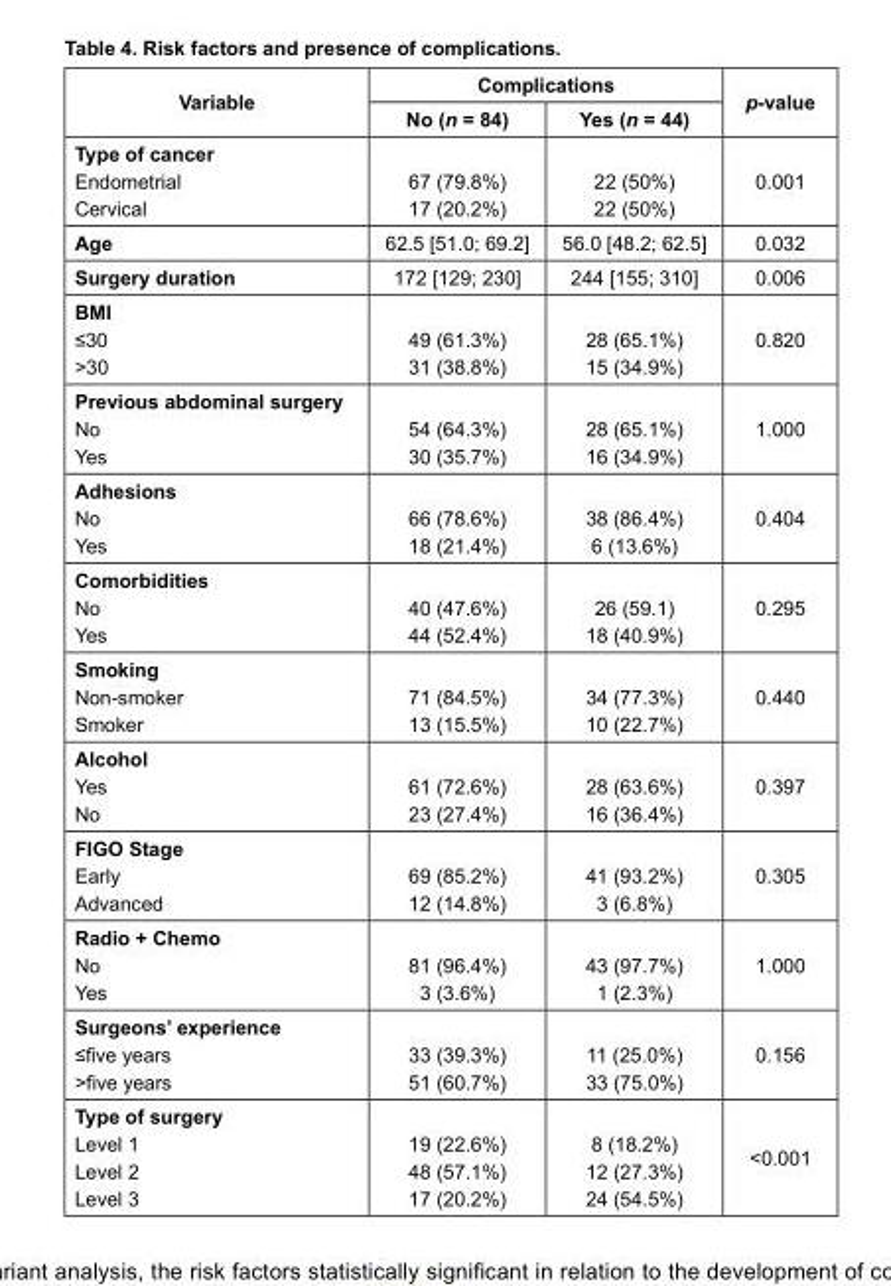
<table><thead><tr><td rowspan="2">Variable</td><td colspan="2">Complications</td><td rowspan="2">p-value</td></tr><tr><td>No (n = 84)</td><td>Yes (n = 44)</td></tr></thead><tbody><tr><td>Type of cancer Endometrial Cervical</td><td>67 (79.8%) 17 (20.2%)</td><td>22 (50%) 22 (50%)</td><td>0.001</td></tr><tr><td>Age</td><td>62.5 [51.0; 69.2]</td><td>56.0 [48.2; 62.5]</td><td>0.032</td></tr><tr><td>Surgery duration</td><td>172 [129; 230]</td><td>244 [155; 310]</td><td>0.006</td></tr><tr><td>BMI ≤30 &gt;30</td><td>49 (61.3%) 31 (38.8%)</td><td>28 (65.1%) 15 (34.9%)</td><td>0.820</td></tr><tr><td>Previous abdominal surgery No Yes</td><td>54 (64.3%) 30 (35.7%)</td><td>28 (65.1%) 16 (34.9%)</td><td>1.000</td></tr><tr><td>Adhesions No Yes</td><td>66 (78.6%) 18 (21.4%)</td><td>38 (86.4%) 6 (13.6%)</td><td>0.404</td></tr><tr><td>Comorbidities No Yes</td><td>40 (47.6%) 44 (52.4%)</td><td>26 (59.1) 18 (40.9%)</td><td>0.295</td></tr><tr><td>Smoking Non-smoker Smoker</td><td>71 (84.5%) 13 (15.5%)</td><td>34 (77.3%) 10 (22.7%)</td><td>0.440</td></tr><tr><td>Alcohol Yes No</td><td>61 (72.6%) 23 (27.4%)</td><td>28 (63.6%) 16 (36.4%)</td><td>0.397</td></tr><tr><td>FIGO Stage Early Advanced</td><td>69 (85.2%) 12 (14.8%)</td><td>41 (93.2%) 3 (6.8%)</td><td>0.305</td></tr><tr><td>Radio + Chemo No Yes</td><td>81 (96.4%) 3 (3.6%)</td><td>43 (97.7%) 1 (2.3%)</td><td>1.000</td></tr><tr><td>Surgeons’ experience ≤five years &gt;five years</td><td>33 (39.3%) 51 (60.7%)</td><td>11 (25.0%) 33 (75.0%)</td><td>0.156</td></tr><tr><td>Type of surgery Level 1 Level 2 Level 3</td><td>19 (22.6%) 48 (57.1%) 17 (20.2%)</td><td>8 (18.2%) 12 (27.3%) 24 (54.5%)</td><td>&lt;0.001</td></tr></tbody></table>